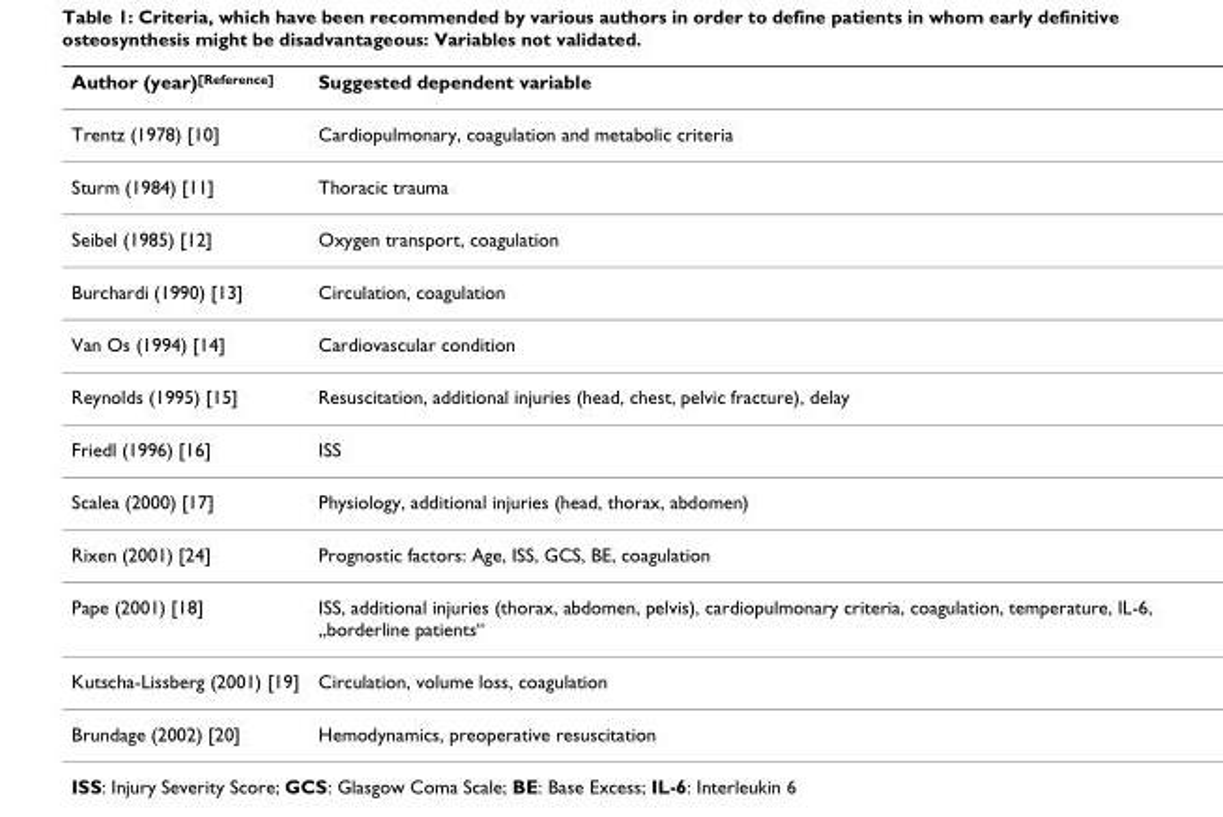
<table><thead><tr><td>Author (year)<sup>[Reference]</sup></td><td>Suggested dependent variable</td></tr></thead><tbody><tr><td>Trentz (1978) [10]</td><td>Cardiopulmonary, coagulation and metabolic criteria</td></tr><tr><td>Sturm (1984) [11]</td><td>Thoracic trauma</td></tr><tr><td>Seibel (1985) [12]</td><td>Oxygen transport, coagulation</td></tr><tr><td>Burchardi (1990) [13]</td><td>Circulation, coagulation</td></tr><tr><td>Van Os (1994) [14]</td><td>Cardiovascular condition</td></tr><tr><td>Reynolds (1995) [15]</td><td>Resuscitation, additional injuries (head, chest, pelvic fracture), delay</td></tr><tr><td>Friedl (1996) [16]</td><td>ISS</td></tr><tr><td>Scalea (2000) [17]</td><td>Physiology, additional injuries (head, thorax, abdomen)</td></tr><tr><td>Rixen (2001) [24]</td><td>Prognostic factors: Age, ISS, GCS, BE, coagulation</td></tr><tr><td>Pape (2001) [18]</td><td>ISS, additional injuries (thorax, abdomen, pelvis), cardiopulmonary criteria, coagulation, temperature, IL-6, „borderline patients“</td></tr><tr><td>Kutscha-Lissberg (2001) [19]</td><td>Circulation, volume loss, coagulation</td></tr><tr><td>Brundage (2002) [20]</td><td>Hemodynamics, preoperative resuscitation</td></tr></tbody></table>